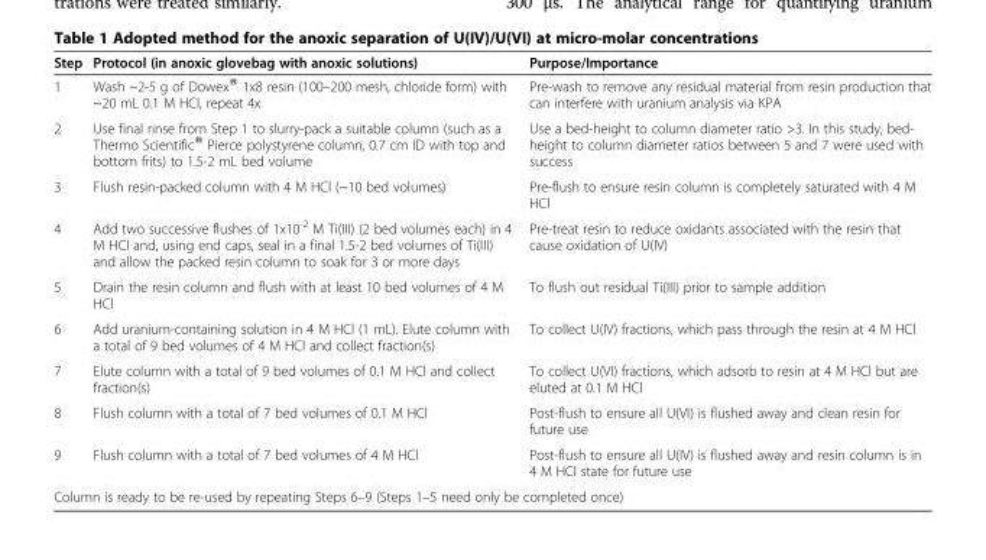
<table><thead><tr><td>Step</td><td>Protocol (in anoxic glovebag with anoxic solutions)</td><td>Purpose/Importance</td></tr></thead><tbody><tr><td>1</td><td>Wash ~2-5 g of Dowex® 1x8 resin (100–200 mesh, chloride form) with ~20 mL 0.1 M HCl, repeat 4x</td><td>Pre-wash to remove any residual material from resin production that can interfere with uranium analysis via KPA</td></tr><tr><td>2</td><td>Use final rinse from Step 1 to slurry-pack a suitable column (such as a Thermo Scientific® Pierce polystyrene column, 0.7 cm ID with top and bottom frits) to 1.5-2 mL bed volume</td><td>Use a bed-height to column diameter ratio &gt;3. In this study, bed- height to column diameter ratios between 5 and 7 were used with success</td></tr><tr><td>3</td><td>Flush resin-packed column with 4 M HCl (~10 bed volumes)</td><td>Pre-flush to ensure resin column is completely saturated with 4 M HCl</td></tr><tr><td>4</td><td>Add two successive flushes of 1x10<sup>-2</sup> M Ti(III) (2 bed volumes each) in 4 M HCl and, using end caps, seal in a final 1.5-2 bed volumes of Ti(III) and allow the packed resin column to soak for 3 or more days</td><td>Pre-treat resin to reduce oxidants associated with the resin that cause oxidation of U(IV)</td></tr><tr><td>5</td><td>Drain the resin column and flush with at least 10 bed volumes of 4 M HCl</td><td>To flush out residual Ti(III) prior to sample addition</td></tr><tr><td>6</td><td>Add uranium-containing solution in 4 M HCl (1 mL). Elute column with a total of 9 bed volumes of 4 M HCl and collect fraction(s)</td><td>To collect U(IV) fractions, which pass through the resin at 4 M HCl</td></tr><tr><td>7</td><td>Elute column with a total of 9 bed volumes of 0.1 M HCl and collect fraction(s)</td><td>To collect U(VI) fractions, which adsorb to resin at 4 M HCl but are eluted at 0.1 M HCl</td></tr><tr><td>8</td><td>Flush column with a total of 7 bed volumes of 0.1 M HCl</td><td>Post-flush to ensure all U(VI) is flushed away and clean resin for future use</td></tr><tr><td>9</td><td>Flush column with a total of 7 bed volumes of 4 M HCl</td><td>Post-flush to ensure all U(IV) is flushed away and resin column is in 4 M HCl state for future use</td></tr><tr><td colspan="3">Column is ready to be re-used by repeating Steps 6–9 (Steps 1–5 need only be completed once)</td></tr></tbody></table>